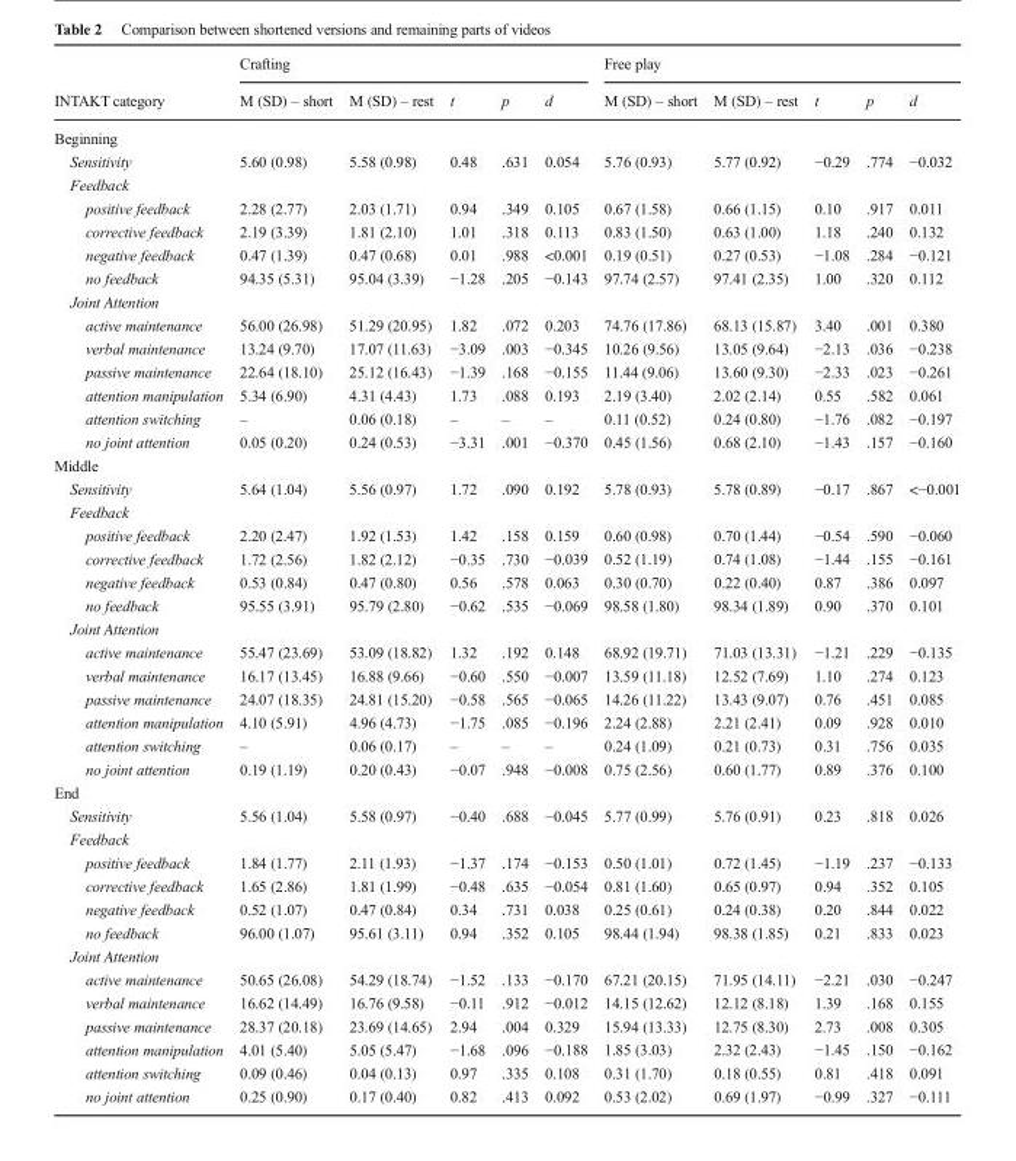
<table><thead><tr><td rowspan="2">INTAKT category</td><td colspan="5">Crafting</td><td colspan="5">Free play</td></tr><tr><td>M (SD) – short</td><td>M (SD) – rest</td><td>t</td><td>p</td><td>d</td><td>M (SD) – short</td><td>M (SD) – rest</td><td>t</td><td>p</td><td>d</td></tr></thead><tbody><tr><td colspan="11">Beginning</td></tr><tr><td>Sensitivity</td><td>5.60 (0.98)</td><td>5.58 (0.98)</td><td>0.48</td><td>.631</td><td>0.054</td><td>5.76 (0.93)</td><td>5.77 (0.92)</td><td>−0.29</td><td>.774</td><td>−0.032</td></tr><tr><td colspan="11">Feedback</td></tr><tr><td>positive feedback</td><td>2.28 (2.77)</td><td>2.03 (1.71)</td><td>0.94</td><td>.349</td><td>0.105</td><td>0.67 (1.58)</td><td>0.66 (1.15)</td><td>0.10</td><td>.917</td><td>0.011</td></tr><tr><td>corrective feedback</td><td>2.19 (3.39)</td><td>1.81 (2.10)</td><td>1.01</td><td>.318</td><td>0.113</td><td>0.83 (1.50)</td><td>0.63 (1.00)</td><td>1.18</td><td>.240</td><td>0.132</td></tr><tr><td>negative feedback</td><td>0.47 (1.39)</td><td>0.47 (0.68)</td><td>0.01</td><td>.988</td><td>&lt;0.001</td><td>0.19 (0.51)</td><td>0.27 (0.53)</td><td>−1.08</td><td>.284</td><td>−0.121</td></tr><tr><td>no feedback</td><td>94.35 (5.31)</td><td>95.04 (3.39)</td><td>−1.28</td><td>.205</td><td>−0.143</td><td>97.74 (2.57)</td><td>97.41 (2.35)</td><td>1.00</td><td>.320</td><td>0.112</td></tr><tr><td colspan="11">Joint Attention</td></tr><tr><td>active maintenance</td><td>56.00 (26.98)</td><td>51.29 (20.95)</td><td>1.82</td><td>.072</td><td>0.203</td><td>74.76 (17.86)</td><td>68.13 (15.87)</td><td>3.40</td><td>.001</td><td>0.380</td></tr><tr><td>verbal maintenance</td><td>13.24 (9.70)</td><td>17.07 (11.63)</td><td>−3.09</td><td>.003</td><td>−0.345</td><td>10.26 (9.56)</td><td>13.05 (9.64)</td><td>−2.13</td><td>.036</td><td>−0.238</td></tr><tr><td>passive maintenance</td><td>22.64 (18.10)</td><td>25.12 (16.43)</td><td>−1.39</td><td>.168</td><td>−0.155</td><td>11.44 (9.06)</td><td>13.60 (9.30)</td><td>−2.33</td><td>.023</td><td>−0.261</td></tr><tr><td>attention manipulation</td><td>5.34 (6.90)</td><td>4.31 (4.43)</td><td>1.73</td><td>.088</td><td>0.193</td><td>2.19 (3.40)</td><td>2.02 (2.14)</td><td>0.55</td><td>.582</td><td>0.061</td></tr><tr><td>attention switching</td><td>–</td><td>0.06 (0.18)</td><td>–</td><td>–</td><td>–</td><td>0.11 (0.52)</td><td>0.24 (0.80)</td><td>−1.76</td><td>.082</td><td>−0.197</td></tr><tr><td>no joint attention</td><td>0.05 (0.20)</td><td>0.24 (0.53)</td><td>−3.31</td><td>.001</td><td>−0.370</td><td>0.45 (1.56)</td><td>0.68 (2.10)</td><td>−1.43</td><td>.157</td><td>−0.160</td></tr><tr><td colspan="11">Middle</td></tr><tr><td>Sensitivity</td><td>5.64 (1.04)</td><td>5.56 (0.97)</td><td>1.72</td><td>.090</td><td>0.192</td><td>5.78 (0.93)</td><td>5.78 (0.89)</td><td>−0.17</td><td>.867</td><td>&lt;−0.001</td></tr><tr><td colspan="11">Feedback</td></tr><tr><td>positive feedback</td><td>2.20 (2.47)</td><td>1.92 (1.53)</td><td>1.42</td><td>.158</td><td>0.159</td><td>0.60 (0.98)</td><td>0.70 (1.44)</td><td>−0.54</td><td>.590</td><td>−0.060</td></tr><tr><td>corrective feedback</td><td>1.72 (2.56)</td><td>1.82 (2.12)</td><td>−0.35</td><td>.730</td><td>−0.039</td><td>0.52 (1.19)</td><td>0.74 (1.08)</td><td>−1.44</td><td>.155</td><td>−0.161</td></tr><tr><td>negative feedback</td><td>0.53 (0.84)</td><td>0.47 (0.80)</td><td>0.56</td><td>.578</td><td>0.063</td><td>0.30 (0.70)</td><td>0.22 (0.40)</td><td>0.87</td><td>.386</td><td>0.097</td></tr><tr><td>no feedback</td><td>95.55 (3.91)</td><td>95.79 (2.80)</td><td>−0.62</td><td>.535</td><td>−0.069</td><td>98.58 (1.80)</td><td>98.34 (1.89)</td><td>0.90</td><td>.370</td><td>0.101</td></tr><tr><td colspan="11">Joint Attention</td></tr><tr><td>active maintenance</td><td>55.47 (23.69)</td><td>53.09 (18.82)</td><td>1.32</td><td>.192</td><td>0.148</td><td>68.92 (19.71)</td><td>71.03 (13.31)</td><td>−1.21</td><td>.229</td><td>−0.135</td></tr><tr><td>verbal maintenance</td><td>16.17 (13.45)</td><td>16.88 (9.66)</td><td>−0.60</td><td>.550</td><td>−0.007</td><td>13.59 (11.18)</td><td>12.52 (7.69)</td><td>1.10</td><td>.274</td><td>0.123</td></tr><tr><td>passive maintenance</td><td>24.07 (18.35)</td><td>24.81 (15.20)</td><td>−0.58</td><td>.565</td><td>−0.065</td><td>14.26 (11.22)</td><td>13.43 (9.07)</td><td>0.76</td><td>.451</td><td>0.085</td></tr><tr><td>attention manipulation</td><td>4.10 (5.91)</td><td>4.96 (4.73)</td><td>−1.75</td><td>.085</td><td>−0.196</td><td>2.24 (2.88)</td><td>2.21 (2.41)</td><td>0.09</td><td>.928</td><td>0.010</td></tr><tr><td>attention switching</td><td>–</td><td>0.06 (0.17)</td><td>–</td><td>–</td><td>–</td><td>0.24 (1.09)</td><td>0.21 (0.73)</td><td>0.31</td><td>.756</td><td>0.035</td></tr><tr><td>no joint attention</td><td>0.19 (1.19)</td><td>0.20 (0.43)</td><td>−0.07</td><td>.948</td><td>−0.008</td><td>0.75 (2.56)</td><td>0.60 (1.77)</td><td>0.89</td><td>.376</td><td>0.100</td></tr><tr><td colspan="11">End</td></tr><tr><td>Sensitivity</td><td>5.56 (1.04)</td><td>5.58 (0.97)</td><td>−0.40</td><td>.688</td><td>−0.045</td><td>5.77 (0.99)</td><td>5.76 (0.91)</td><td>0.23</td><td>.818</td><td>0.026</td></tr><tr><td colspan="11">Feedback</td></tr><tr><td>positive feedback</td><td>1.84 (1.77)</td><td>2.11 (1.93)</td><td>−1.37</td><td>.174</td><td>−0.153</td><td>0.50 (1.01)</td><td>0.72 (1.45)</td><td>−1.19</td><td>.237</td><td>−0.133</td></tr><tr><td>corrective feedback</td><td>1.65 (2.86)</td><td>1.81 (1.99)</td><td>−0.48</td><td>.635</td><td>−0.054</td><td>0.81 (1.60)</td><td>0.65 (0.97)</td><td>0.94</td><td>.352</td><td>0.105</td></tr><tr><td>negative feedback</td><td>0.52 (1.07)</td><td>0.47 (0.84)</td><td>0.34</td><td>.731</td><td>0.038</td><td>0.25 (0.61)</td><td>0.24 (0.38)</td><td>0.20</td><td>.844</td><td>0.022</td></tr><tr><td>no feedback</td><td>96.00 (1.07)</td><td>95.61 (3.11)</td><td>0.94</td><td>.352</td><td>0.105</td><td>98.44 (1.94)</td><td>98.38 (1.85)</td><td>0.21</td><td>.833</td><td>0.023</td></tr><tr><td colspan="11">Joint Attention</td></tr><tr><td>active maintenance</td><td>50.65 (26.08)</td><td>54.29 (18.74)</td><td>−1.52</td><td>.133</td><td>−0.170</td><td>67.21 (20.15)</td><td>71.95 (14.11)</td><td>−2.21</td><td>.030</td><td>−0.247</td></tr><tr><td>verbal maintenance</td><td>16.62 (14.49)</td><td>16.76 (9.58)</td><td>−0.11</td><td>.912</td><td>−0.012</td><td>14.15 (12.62)</td><td>12.12 (8.18)</td><td>1.39</td><td>.168</td><td>0.155</td></tr><tr><td>passive maintenance</td><td>28.37 (20.18)</td><td>23.69 (14.65)</td><td>2.94</td><td>.004</td><td>0.329</td><td>15.94 (13.33)</td><td>12.75 (8.30)</td><td>2.73</td><td>.008</td><td>0.305</td></tr><tr><td>attention manipulation</td><td>4.01 (5.40)</td><td>5.05 (5.47)</td><td>−1.68</td><td>.096</td><td>−0.188</td><td>1.85 (3.03)</td><td>2.32 (2.43)</td><td>−1.45</td><td>.150</td><td>−0.162</td></tr><tr><td>attention switching</td><td>0.09 (0.46)</td><td>0.04 (0.13)</td><td>0.97</td><td>.335</td><td>0.108</td><td>0.31 (1.70)</td><td>0.18 (0.55)</td><td>0.81</td><td>.418</td><td>0.091</td></tr><tr><td>no joint attention</td><td>0.25 (0.90)</td><td>0.17 (0.40)</td><td>0.82</td><td>.413</td><td>0.092</td><td>0.53 (2.02)</td><td>0.69 (1.97)</td><td>−0.99</td><td>.327</td><td>−0.111</td></tr></tbody></table>